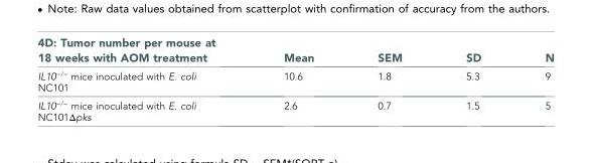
<table><thead><tr><td>4D: Tumor number per mouse at 18 weeks with AOM treatment</td><td>Mean</td><td>SEM</td><td>SD</td><td>N</td></tr></thead><tbody><tr><td>IL10<sup>−/−</sup> mice inoculated with E. coli NC101</td><td>10.6</td><td>1.8</td><td>5.3</td><td>9</td></tr><tr><td>IL10<sup>−/−</sup> mice inoculated with E. coli NC101Δpks</td><td>2.6</td><td>0.7</td><td>1.5</td><td>5</td></tr></tbody></table>